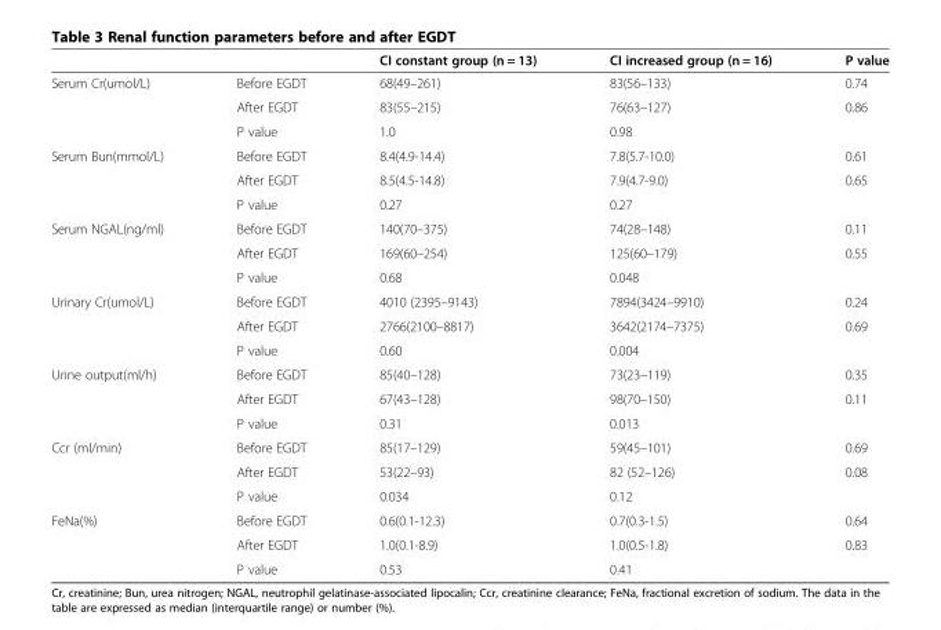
<table><thead><tr><td></td><td></td><td>CI constant group (n = 13)</td><td>CI increased group (n = 16)</td><td>P value</td></tr></thead><tbody><tr><td rowspan="3">Serum Cr(umol/L)</td><td>Before EGDT</td><td>68(49–261)</td><td>83(56–133)</td><td>0.74</td></tr><tr><td>After EGDT</td><td>83(55–215)</td><td>76(63–127)</td><td>0.86</td></tr><tr><td>P value</td><td>1.0</td><td>0.98</td><td></td></tr><tr><td rowspan="3">Serum Bun(mmol/L)</td><td>Before EGDT</td><td>8.4(4.9-14.4)</td><td>7.8(5.7-10.0)</td><td>0.61</td></tr><tr><td>After EGDT</td><td>8.5(4.5-14.8)</td><td>7.9(4.7-9.0)</td><td>0.65</td></tr><tr><td>P value</td><td>0.27</td><td>0.27</td><td></td></tr><tr><td rowspan="3">Serum NGAL(ng/ml)</td><td>Before EGDT</td><td>140(70–375)</td><td>74(28–148)</td><td>0.11</td></tr><tr><td>After EGDT</td><td>169(60–254)</td><td>125(60–179)</td><td>0.55</td></tr><tr><td>P value</td><td>0.68</td><td>0.048</td><td></td></tr><tr><td rowspan="3">Urinary Cr(umol/L)</td><td>Before EGDT</td><td>4010 (2395–9143)</td><td>7894(3424–9910)</td><td>0.24</td></tr><tr><td>After EGDT</td><td>2766(2100–8817)</td><td>3642(2174–7375)</td><td>0.69</td></tr><tr><td>P value</td><td>0.60</td><td>0.004</td><td></td></tr><tr><td rowspan="3">Urine output(ml/h)</td><td>Before EGDT</td><td>85(40–128)</td><td>73(23–119)</td><td>0.35</td></tr><tr><td>After EGDT</td><td>67(43–128)</td><td>98(70–150)</td><td>0.11</td></tr><tr><td>P value</td><td>0.31</td><td>0.013</td><td></td></tr><tr><td rowspan="3">Ccr (ml/min)</td><td>Before EGDT</td><td>85(17–129)</td><td>59(45–101)</td><td>0.69</td></tr><tr><td>After EGDT</td><td>53(22–93)</td><td>82 (52–126)</td><td>0.08</td></tr><tr><td>P value</td><td>0.034</td><td>0.12</td><td></td></tr><tr><td rowspan="3">FeNa(%)</td><td>Before EGDT</td><td>0.6(0.1-12.3)</td><td>0.7(0.3-1.5)</td><td>0.64</td></tr><tr><td>After EGDT</td><td>1.0(0.1-8.9)</td><td>1.0(0.5-1.8)</td><td>0.83</td></tr><tr><td>P value</td><td>0.53</td><td>0.41</td><td></td></tr></tbody></table>